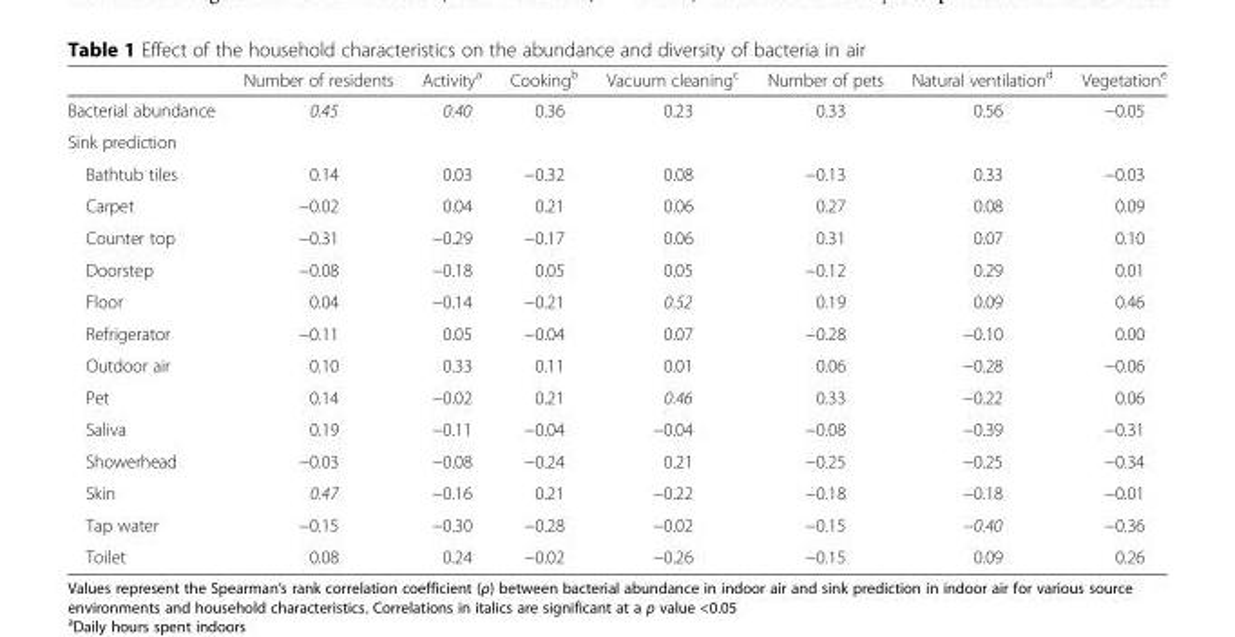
<table><thead><tr><td></td><td>Number of residents</td><td>Activity<sup>a</sup></td><td>Cooking<sup>b</sup></td><td>Vacuum cleaning<sup>c</sup></td><td>Number of pets</td><td>Natural ventilation<sup>d</sup></td><td>Vegetation<sup>e</sup></td></tr></thead><tbody><tr><td>Bacterial abundance</td><td>0.45</td><td>0.40</td><td>0.36</td><td>0.23</td><td>0.33</td><td>0.56</td><td>−0.05</td></tr><tr><td colspan="8">Sink prediction</td></tr><tr><td>Bathtub tiles</td><td>0.14</td><td>0.03</td><td>−0.32</td><td>0.08</td><td>−0.13</td><td>0.33</td><td>−0.03</td></tr><tr><td>Carpet</td><td>−0.02</td><td>0.04</td><td>0.21</td><td>0.06</td><td>0.27</td><td>0.08</td><td>0.09</td></tr><tr><td>Counter top</td><td>−0.31</td><td>−0.29</td><td>−0.17</td><td>0.06</td><td>0.31</td><td>0.07</td><td>0.10</td></tr><tr><td>Doorstep</td><td>−0.08</td><td>−0.18</td><td>0.05</td><td>0.05</td><td>−0.12</td><td>0.29</td><td>0.01</td></tr><tr><td>Floor</td><td>0.04</td><td>−0.14</td><td>−0.21</td><td>0.52</td><td>0.19</td><td>0.09</td><td>0.46</td></tr><tr><td>Refrigerator</td><td>−0.11</td><td>0.05</td><td>−0.04</td><td>0.07</td><td>−0.28</td><td>−0.10</td><td>0.00</td></tr><tr><td>Outdoor air</td><td>0.10</td><td>0.33</td><td>0.11</td><td>0.01</td><td>0.06</td><td>−0.28</td><td>−0.06</td></tr><tr><td>Pet</td><td>0.14</td><td>−0.02</td><td>0.21</td><td>0.46</td><td>0.33</td><td>−0.22</td><td>0.06</td></tr><tr><td>Saliva</td><td>0.19</td><td>−0.11</td><td>−0.04</td><td>−0.04</td><td>−0.08</td><td>−0.39</td><td>−0.31</td></tr><tr><td>Showerhead</td><td>−0.03</td><td>−0.08</td><td>−0.24</td><td>0.21</td><td>−0.25</td><td>−0.25</td><td>−0.34</td></tr><tr><td>Skin</td><td>0.47</td><td>−0.16</td><td>0.21</td><td>−0.22</td><td>−0.18</td><td>−0.18</td><td>−0.01</td></tr><tr><td>Tap water</td><td>−0.15</td><td>−0.30</td><td>−0.28</td><td>−0.02</td><td>−0.15</td><td>−0.40</td><td>−0.36</td></tr><tr><td>Toilet</td><td>0.08</td><td>0.24</td><td>−0.02</td><td>−0.26</td><td>−0.15</td><td>0.09</td><td>0.26</td></tr></tbody></table>